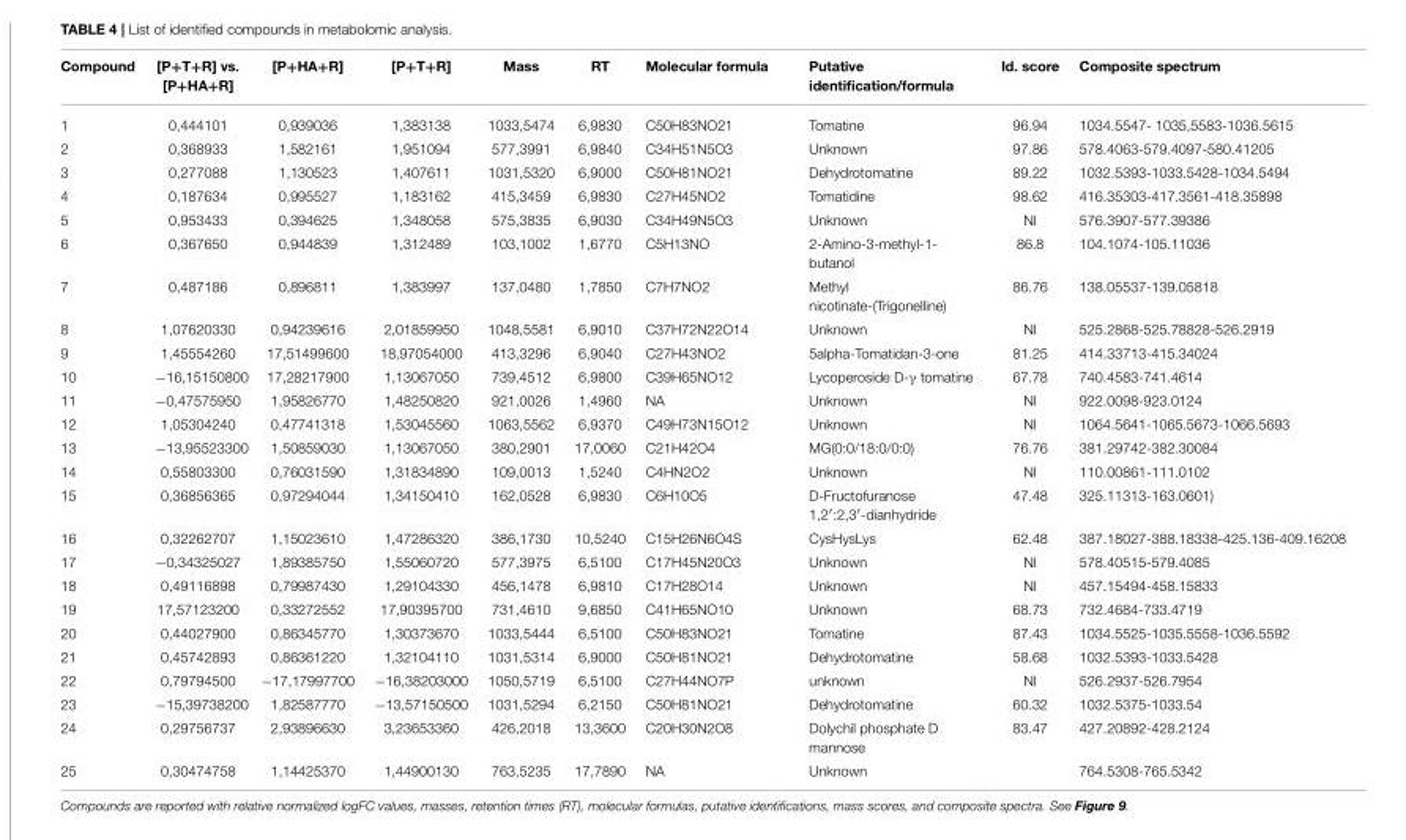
<table><thead><tr><td>Compound</td><td>[P+T+R] vs. [P+HA+R]</td><td>[P+HA+R]</td><td>[P+T+R]</td><td>Mass</td><td>RT</td><td>Molecular formula</td><td>Putative identification/formula</td><td>Id. score</td><td>Composite spectrum</td></tr></thead><tbody><tr><td>1</td><td>0,444101</td><td>0,939036</td><td>1,383138</td><td>1033,5474</td><td>6,9830</td><td>C50H83NO21</td><td>Tomatine</td><td>96.94</td><td>1034.5547- 1035,5583-1036.5615</td></tr><tr><td>2</td><td>0,368933</td><td>1,582161</td><td>1,951094</td><td>577,3991</td><td>6,9840</td><td>C34H51N5O3</td><td>Unknown</td><td>97.86</td><td>578.4063-579.4097-580.41205</td></tr><tr><td>3</td><td>0,277088</td><td>1,130523</td><td>1,407611</td><td>1031,5320</td><td>6,9000</td><td>C50H81NO21</td><td>Dehydrotomatine</td><td>89.22</td><td>1032.5393-1033.5428-1034.5494</td></tr><tr><td>4</td><td>0,187634</td><td>0,995527</td><td>1,183162</td><td>415,3459</td><td>6,9830</td><td>C27H45NO2</td><td>Tomatidine</td><td>98.62</td><td>416.35303-417.3561-418.35898</td></tr><tr><td>5</td><td>0,953433</td><td>0,394625</td><td>1,348058</td><td>575,3835</td><td>6,9030</td><td>C34H49N5O3</td><td>Unknown</td><td>NI</td><td>576.3907-577.39386</td></tr><tr><td>6</td><td>0,367650</td><td>0,944839</td><td>1,312489</td><td>103,1002</td><td>1,6770</td><td>C5H13NO</td><td>2-Amino-3-methyl-1- butanol</td><td>86.8</td><td>104.1074-105.11036</td></tr><tr><td>7</td><td>0,487186</td><td>0,896811</td><td>1,383997</td><td>137,0480</td><td>1,7850</td><td>C7H7NO2</td><td>Methyl nicotinate-(Trigonelline)</td><td>86.76</td><td>138.05537-139.05818</td></tr><tr><td>8</td><td>1,07620330</td><td>0,94239616</td><td>2,01859950</td><td>1048,5581</td><td>6,9010</td><td>C37H72N22O14</td><td>Unknown</td><td>NI</td><td>525.2868-525.78828-526.2919</td></tr><tr><td>9</td><td>1,45554260</td><td>17,51499600</td><td>18,97054000</td><td>413,3296</td><td>6,9040</td><td>C27H43NO2</td><td>5alpha-Tomatidan-3-one</td><td>81.25</td><td>414.33713-415.34024</td></tr><tr><td>10</td><td>−16,15150800</td><td>17,28217900</td><td>1,13067050</td><td>739,4512</td><td>6,9800</td><td>C39H65NO12</td><td>Lycoperoside D-γ tomatine</td><td>67.78</td><td>740.4583-741.4614</td></tr><tr><td>11</td><td>−0,47575950</td><td>1,95826770</td><td>1,48250820</td><td>921,0026</td><td>1,4960</td><td>NA</td><td>Unknown</td><td>NI</td><td>922.0098-923.0124</td></tr><tr><td>12</td><td>1,05304240</td><td>0,47741318</td><td>1,53045560</td><td>1063,5562</td><td>6,9370</td><td>C49H73N15O12</td><td>Unknown</td><td>NI</td><td>1064.5641-1065.5673-1066.5693</td></tr><tr><td>13</td><td>−13,95523300</td><td>1,50859030</td><td>1,13067050</td><td>380,2901</td><td>17,0060</td><td>C21H42O4</td><td>MG(0:0/18:0/0:0)</td><td>76.76</td><td>381.29742-382.30084</td></tr><tr><td>14</td><td>0,55803300</td><td>0,76031590</td><td>1,31834890</td><td>109,0013</td><td>1,5240</td><td>C4HN2O2</td><td>Unknown</td><td>NI</td><td>110.00861-111.0102</td></tr><tr><td>15</td><td>0,36856365</td><td>0,97294044</td><td>1,34150410</td><td>162,0528</td><td>6,9830</td><td>C6H10O5</td><td>D-Fructofuranose 1,2′:2,3′-dianhydride</td><td>47.48</td><td>325.11313-163.0601)</td></tr><tr><td>16</td><td>0,32262707</td><td>1,15023610</td><td>1,47286320</td><td>386,1730</td><td>10,5240</td><td>C15H26N6O4S</td><td>CysHysLys</td><td>62.48</td><td>387.18027-388.18338-425.136-409.16208</td></tr><tr><td>17</td><td>−0,34325027</td><td>1,89385750</td><td>1,55060720</td><td>577,3975</td><td>6,5100</td><td>C17H45N20O3</td><td>Unknown</td><td>NI</td><td>578.40515-579.4085</td></tr><tr><td>18</td><td>0,49116898</td><td>0,79987430</td><td>1,29104330</td><td>456,1478</td><td>6,9810</td><td>C17H28O14</td><td>Unknown</td><td>NI</td><td>457.15494-458.15833</td></tr><tr><td>19</td><td>17,57123200</td><td>0,33272552</td><td>17,90395700</td><td>731,4610</td><td>9,6850</td><td>C41H65NO10</td><td>Unknown</td><td>68.73</td><td>732.4684-733.4719</td></tr><tr><td>20</td><td>0,44027900</td><td>0,86345770</td><td>1,30373670</td><td>1033,5444</td><td>6,5100</td><td>C50H83NO21</td><td>Tomatine</td><td>87.43</td><td>1034.5525-1035.5558-1036.5592</td></tr><tr><td>21</td><td>0,45742893</td><td>0,86361220</td><td>1,32104110</td><td>1031,5314</td><td>6,9000</td><td>C50H81NO21</td><td>Dehydrotomatine</td><td>58.68</td><td>1032.5393-1033.5428</td></tr><tr><td>22</td><td>0,79794500</td><td>−17,17997700</td><td>−16,38203000</td><td>1050,5719</td><td>6,5100</td><td>C27H44NO7P</td><td>unknown</td><td>NI</td><td>526.2937-526.7954</td></tr><tr><td>23</td><td>−15,39738200</td><td>1,82587770</td><td>−13,57150500</td><td>1031,5294</td><td>6,2150</td><td>C50H81NO21</td><td>Dehydrotomatine</td><td>60.32</td><td>1032.5375-1033.54</td></tr><tr><td>24</td><td>0,29756737</td><td>2,93896630</td><td>3,23653360</td><td>426,2018</td><td>13,3600</td><td>C20H30N2O8</td><td>Dolychil phosphate D mannose</td><td>83.47</td><td>427.20892-428.2124</td></tr><tr><td>25</td><td>0,30474758</td><td>1,14425370</td><td>1,44900130</td><td>763,5235</td><td>17,7890</td><td>NA</td><td>Unknown</td><td></td><td>764.5308-765.5342</td></tr></tbody></table>